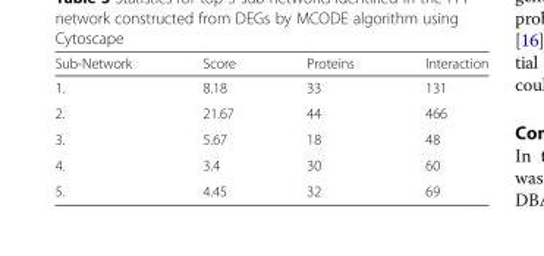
<table><thead><tr><td>Sub-Network</td><td>Score</td><td>Proteins</td><td>Interaction</td></tr></thead><tbody><tr><td>1.</td><td>8.18</td><td>33</td><td>131</td></tr><tr><td>2.</td><td>21.67</td><td>44</td><td>466</td></tr><tr><td>3.</td><td>5.67</td><td>18</td><td>48</td></tr><tr><td>4.</td><td>3.4</td><td>30</td><td>60</td></tr><tr><td>5.</td><td>4.45</td><td>32</td><td>69</td></tr></tbody></table>